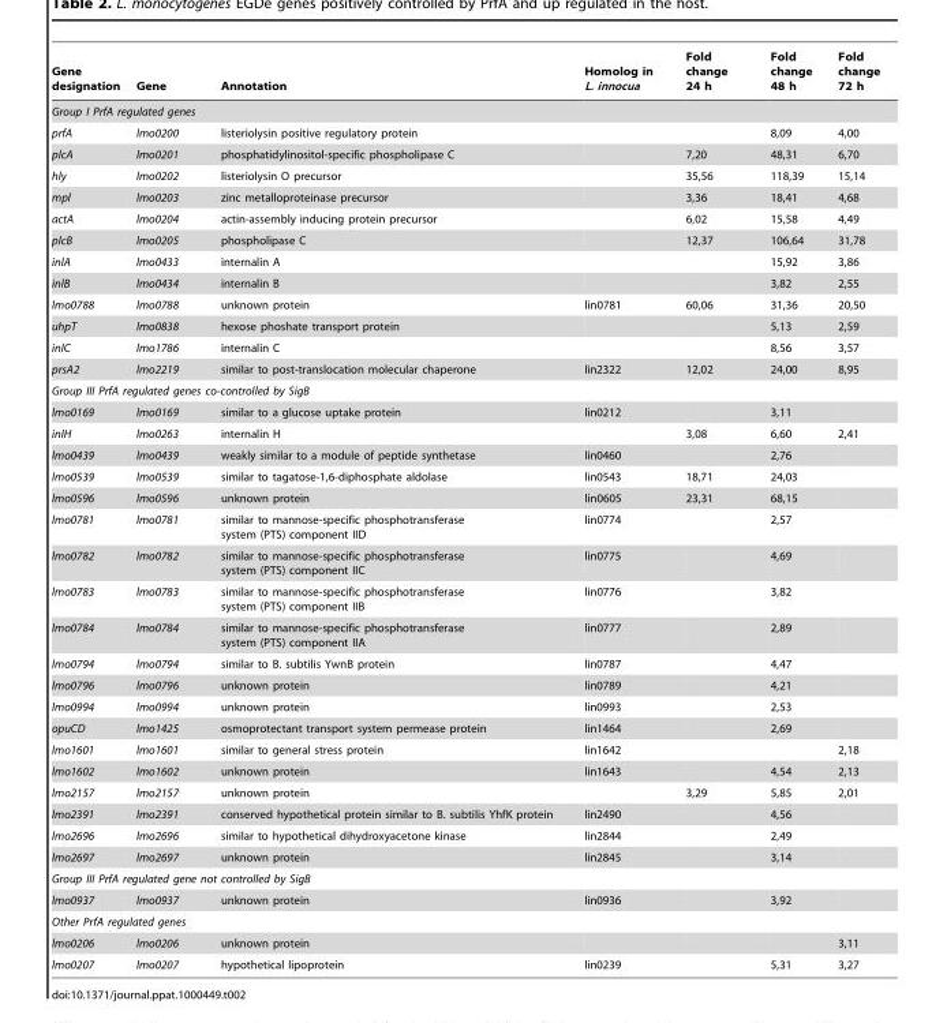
<table><thead><tr><td>Gene designation</td><td>Gene</td><td>Annotation</td><td>Homolog in L. innocua</td><td>Fold change 24 h</td><td>Fold change 48 h</td><td>Fold change 72 h</td></tr></thead><tbody><tr><td colspan="7">Group I PrfA regulated genes</td></tr><tr><td>prfA</td><td>lmo0200</td><td>listeriolysin positive regulatory protein</td><td></td><td></td><td>8,09</td><td>4,00</td></tr><tr><td>plcA</td><td>lmo0201</td><td>phosphatidylinositol-specific phospholipase C</td><td></td><td>7,20</td><td>48,31</td><td>6,70</td></tr><tr><td>hly</td><td>lmo0202</td><td>listeriolysin O precursor</td><td></td><td>35,56</td><td>118,39</td><td>15,14</td></tr><tr><td>mpl</td><td>lmo0203</td><td>zinc metalloproteinase precursor</td><td></td><td>3,36</td><td>18,41</td><td>4,68</td></tr><tr><td>actA</td><td>lmo0204</td><td>actin-assembly inducing protein precursor</td><td></td><td>6,02</td><td>15,58</td><td>4,49</td></tr><tr><td>plcB</td><td>lmo0205</td><td>phospholipase C</td><td></td><td>12,37</td><td>106,64</td><td>31,78</td></tr><tr><td>inlA</td><td>lmo0433</td><td>internalin A</td><td></td><td></td><td>15,92</td><td>3,86</td></tr><tr><td>inlB</td><td>lmo0434</td><td>internalin B</td><td></td><td></td><td>3,82</td><td>2,55</td></tr><tr><td>lmo0788</td><td>lmo0788</td><td>unknown protein</td><td>lin0781</td><td>60,06</td><td>31,36</td><td>20,50</td></tr><tr><td>uhpT</td><td>lmo0838</td><td>hexose phoshate transport protein</td><td></td><td></td><td>5,13</td><td>2,59</td></tr><tr><td>inlC</td><td>lmo1786</td><td>internalin C</td><td></td><td></td><td>8,56</td><td>3,57</td></tr><tr><td>prsA2</td><td>lmo2219</td><td>similar to post-translocation molecular chaperone</td><td>lin2322</td><td>12,02</td><td>24,00</td><td>8,95</td></tr><tr><td colspan="7">Group III PrfA regulated genes co-controlled by SigB</td></tr><tr><td>lmo0169</td><td>lmo0169</td><td>similar to a glucose uptake protein</td><td>lin0212</td><td></td><td>3,11</td><td></td></tr><tr><td>inlH</td><td>lmo0263</td><td>internalin H</td><td></td><td>3,08</td><td>6,60</td><td>2,41</td></tr><tr><td>lmo0439</td><td>lmo0439</td><td>weakly similar to a module of peptide synthetase</td><td>lin0460</td><td></td><td>2,76</td><td></td></tr><tr><td>lmo0539</td><td>lmo0539</td><td>similar to tagatose-1,6-diphosphate aldolase</td><td>lin0543</td><td>18,71</td><td>24,03</td><td></td></tr><tr><td>lmo0596</td><td>lmo0596</td><td>unknown protein</td><td>lin0605</td><td>23,31</td><td>68,15</td><td></td></tr><tr><td>lmo0781</td><td>lmo0781</td><td>similar to mannose-specific phosphotransferase system (PTS) component IID</td><td>lin0774</td><td></td><td>2,57</td><td></td></tr><tr><td>lmo0782</td><td>lmo0782</td><td>similar to mannose-specific phosphotransferase system (PTS) component IIC</td><td>lin0775</td><td></td><td>4,69</td><td></td></tr><tr><td>lmo0783</td><td>lmo0783</td><td>similar to mannose-specific phosphotransferase system (PTS) component IIB</td><td>lin0776</td><td></td><td>3,82</td><td></td></tr><tr><td>lmo0784</td><td>lmo0784</td><td>similar to mannose-specific phosphotransferase system (PTS) component IIA</td><td>lin0777</td><td></td><td>2,89</td><td></td></tr><tr><td>lmo0794</td><td>lmo0794</td><td>similar to B. subtilis YwnB protein</td><td>lin0787</td><td></td><td>4,47</td><td></td></tr><tr><td>lmo0796</td><td>lmo0796</td><td>unknown protein</td><td>lin0789</td><td></td><td>4,21</td><td></td></tr><tr><td>lmo0994</td><td>lmo0994</td><td>unknown protein</td><td>lin0993</td><td></td><td>2,53</td><td></td></tr><tr><td>opuCD</td><td>lmo1425</td><td>osmoprotectant transport system permease protein</td><td>lin1464</td><td></td><td>2,69</td><td></td></tr><tr><td>lmo1601</td><td>lmo1601</td><td>similar to general stress protein</td><td>lin1642</td><td></td><td></td><td>2,18</td></tr><tr><td>lmo1602</td><td>lmo1602</td><td>unknown protein</td><td>lin1643</td><td></td><td>4,54</td><td>2,13</td></tr><tr><td>lmo2157</td><td>lmo2157</td><td>unknown protein</td><td></td><td>3,29</td><td>5,85</td><td>2,01</td></tr><tr><td>lmo2391</td><td>lmo2391</td><td>conserved hypothetical protein similar to B. subtilis YhfK protein</td><td>lin2490</td><td></td><td>4,56</td><td></td></tr><tr><td>lmo2696</td><td>lmo2696</td><td>similar to hypothetical dihydroxyacetone kinase</td><td>lin2844</td><td></td><td>2,49</td><td></td></tr><tr><td>lmo2697</td><td>lmo2697</td><td>unknown protein</td><td>lin2845</td><td></td><td>3,14</td><td></td></tr><tr><td colspan="7">Group III PrfA regulated gene not controlled by SigB</td></tr><tr><td>lmo0937</td><td>lmo0937</td><td>unknown protein</td><td>lin0936</td><td></td><td>3,92</td><td></td></tr><tr><td colspan="7">Other PrfA regulated genes</td></tr><tr><td>lmo0206</td><td>lmo0206</td><td>unknown protein</td><td></td><td></td><td></td><td>3,11</td></tr><tr><td>lmo0207</td><td>lmo0207</td><td>hypothetical lipoprotein</td><td>lin0239</td><td></td><td>5,31</td><td>3,27</td></tr></tbody></table>